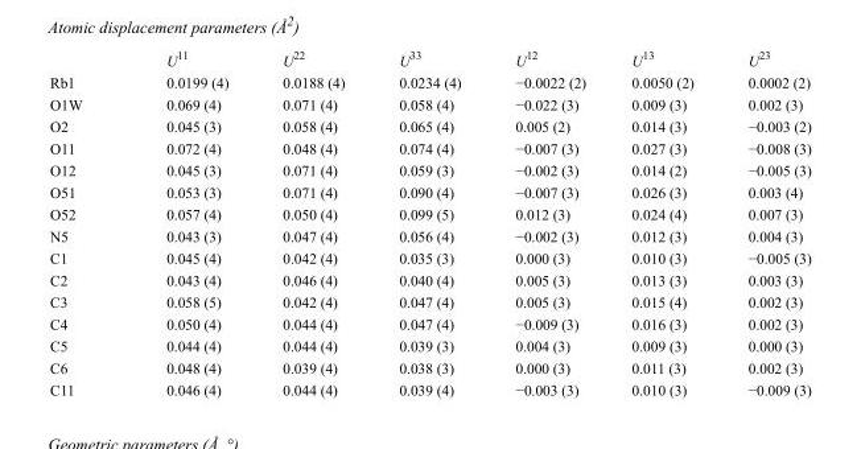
<table><thead><tr><td></td><td>U<sup>11</sup></td><td>U<sup>22</sup></td><td>U<sup>33</sup></td><td>U<sup>12</sup></td><td>U<sup>13</sup></td><td>U<sup>23</sup></td></tr></thead><tbody><tr><td>Rb1</td><td>0.0199 (4)</td><td>0.0188 (4)</td><td>0.0234 (4)</td><td>−0.0022 (2)</td><td>0.0050 (2)</td><td>0.0002 (2)</td></tr><tr><td>O1W</td><td>0.069 (4)</td><td>0.071 (4)</td><td>0.058 (4)</td><td>−0.022 (3)</td><td>0.009 (3)</td><td>0.002 (3)</td></tr><tr><td>O2</td><td>0.045 (3)</td><td>0.058 (4)</td><td>0.065 (4)</td><td>0.005 (2)</td><td>0.014 (3)</td><td>−0.003 (2)</td></tr><tr><td>O11</td><td>0.072 (4)</td><td>0.048 (4)</td><td>0.074 (4)</td><td>−0.007 (3)</td><td>0.027 (3)</td><td>−0.008 (3)</td></tr><tr><td>O12</td><td>0.045 (3)</td><td>0.071 (4)</td><td>0.059 (3)</td><td>−0.002 (3)</td><td>0.014 (2)</td><td>−0.005 (3)</td></tr><tr><td>O51</td><td>0.053 (3)</td><td>0.071 (4)</td><td>0.090 (4)</td><td>−0.007 (3)</td><td>0.026 (3)</td><td>0.003 (4)</td></tr><tr><td>O52</td><td>0.057 (4)</td><td>0.050 (4)</td><td>0.099 (5)</td><td>0.012 (3)</td><td>0.024 (4)</td><td>0.007 (3)</td></tr><tr><td>N5</td><td>0.043 (3)</td><td>0.047 (4)</td><td>0.056 (4)</td><td>−0.002 (3)</td><td>0.012 (3)</td><td>0.004 (3)</td></tr><tr><td>C1</td><td>0.045 (4)</td><td>0.042 (4)</td><td>0.035 (3)</td><td>0.000 (3)</td><td>0.010 (3)</td><td>−0.005 (3)</td></tr><tr><td>C2</td><td>0.043 (4)</td><td>0.046 (4)</td><td>0.040 (4)</td><td>0.005 (3)</td><td>0.013 (3)</td><td>0.003 (3)</td></tr><tr><td>C3</td><td>0.058 (5)</td><td>0.042 (4)</td><td>0.047 (4)</td><td>0.005 (3)</td><td>0.015 (4)</td><td>0.002 (3)</td></tr><tr><td>C4</td><td>0.050 (4)</td><td>0.044 (4)</td><td>0.047 (4)</td><td>−0.009 (3)</td><td>0.016 (3)</td><td>0.002 (3)</td></tr><tr><td>C5</td><td>0.044 (4)</td><td>0.044 (4)</td><td>0.039 (3)</td><td>0.004 (3)</td><td>0.009 (3)</td><td>0.000 (3)</td></tr><tr><td>C6</td><td>0.048 (4)</td><td>0.039 (4)</td><td>0.038 (3)</td><td>0.000 (3)</td><td>0.011 (3)</td><td>0.002 (3)</td></tr><tr><td>C11</td><td>0.046 (4)</td><td>0.044 (4)</td><td>0.039 (4)</td><td>−0.003 (3)</td><td>0.010 (3)</td><td>−0.009 (3)</td></tr></tbody></table>